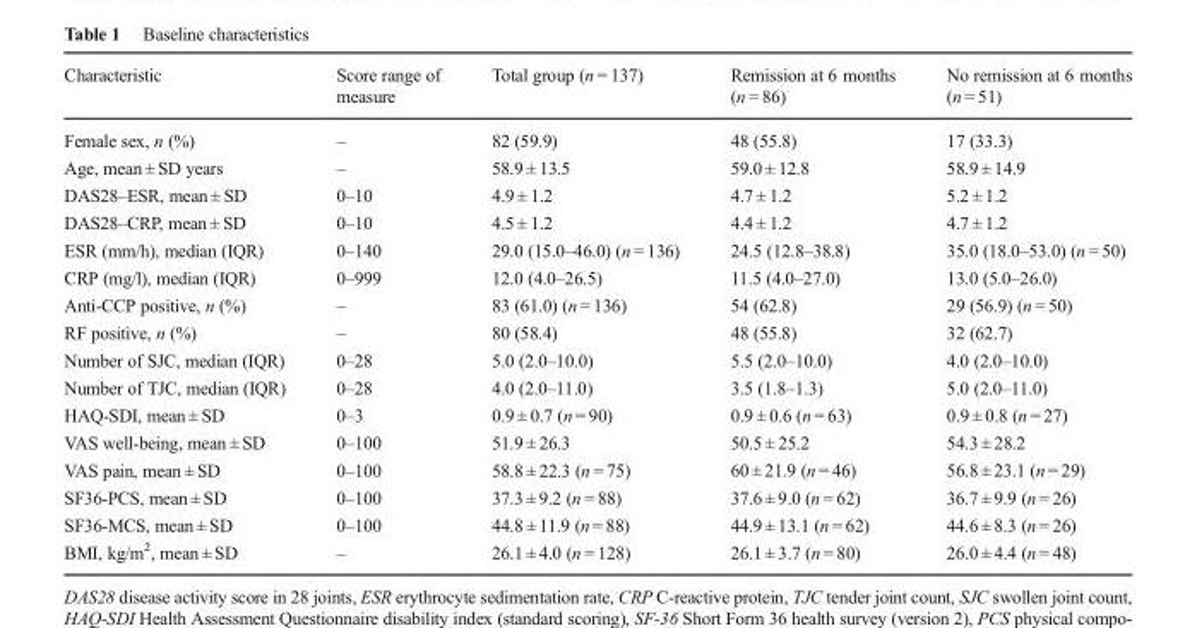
<table><thead><tr><td>Characteristic</td><td>Score range of measure</td><td>Total group (n = 137)</td><td>Remission at 6 months (n = 86)</td><td>No remission at 6 months (n = 51)</td></tr></thead><tbody><tr><td>Female sex, n (%)</td><td>–</td><td>82 (59.9)</td><td>48 (55.8)</td><td>17 (33.3)</td></tr><tr><td>Age, mean ± SD years</td><td>–</td><td>58.9 ± 13.5</td><td>59.0 ± 12.8</td><td>58.9 ± 14.9</td></tr><tr><td>DAS28–ESR, mean ± SD</td><td>0–10</td><td>4.9 ± 1.2</td><td>4.7 ± 1.2</td><td>5.2 ± 1.2</td></tr><tr><td>DAS28–CRP, mean ± SD</td><td>0–10</td><td>4.5 ± 1.2</td><td>4.4 ± 1.2</td><td>4.7 ± 1.2</td></tr><tr><td>ESR (mm/h), median (IQR)</td><td>0–140</td><td>29.0 (15.0–46.0) (n = 136)</td><td>24.5 (12.8–38.8)</td><td>35.0 (18.0–53.0) (n = 50)</td></tr><tr><td>CRP (mg/l), median (IQR)</td><td>0–999</td><td>12.0 (4.0–26.5)</td><td>11.5 (4.0–27.0)</td><td>13.0 (5.0–26.0)</td></tr><tr><td>Anti-CCP positive, n (%)</td><td>–</td><td>83 (61.0) (n = 136)</td><td>54 (62.8)</td><td>29 (56.9) (n = 50)</td></tr><tr><td>RF positive, n (%)</td><td>–</td><td>80 (58.4)</td><td>48 (55.8)</td><td>32 (62.7)</td></tr><tr><td>Number of SJC, median (IQR)</td><td>0–28</td><td>5.0 (2.0–10.0)</td><td>5.5 (2.0–10.0)</td><td>4.0 (2.0–10.0)</td></tr><tr><td>Number of TJC, median (IQR)</td><td>0–28</td><td>4.0 (2.0–11.0)</td><td>3.5 (1.8–1.3)</td><td>5.0 (2.0–11.0)</td></tr><tr><td>HAQ-SDI, mean ± SD</td><td>0–3</td><td>0.9 ± 0.7 (n = 90)</td><td>0.9 ± 0.6 (n = 63)</td><td>0.9 ± 0.8 (n = 27)</td></tr><tr><td>VAS well-being, mean ± SD</td><td>0–100</td><td>51.9 ± 26.3</td><td>50.5 ± 25.2</td><td>54.3 ± 28.2</td></tr><tr><td>VAS pain, mean ± SD</td><td>0–100</td><td>58.8 ± 22.3 (n = 75)</td><td>60 ± 21.9 (n = 46)</td><td>56.8 ± 23.1 (n = 29)</td></tr><tr><td>SF36-PCS, mean ± SD</td><td>0–100</td><td>37.3 ± 9.2 (n = 88)</td><td>37.6 ± 9.0 (n = 62)</td><td>36.7 ± 9.9 (n = 26)</td></tr><tr><td>SF36-MCS, mean ± SD</td><td>0–100</td><td>44.8 ± 11.9 (n = 88)</td><td>44.9 ± 13.1 (n = 62)</td><td>44.6 ± 8.3 (n = 26)</td></tr><tr><td>BMI, kg/m<sup>2</sup>, mean ± SD</td><td>–</td><td>26.1 ± 4.0 (n = 128)</td><td>26.1 ± 3.7 (n = 80)</td><td>26.0 ± 4.4 (n = 48)</td></tr></tbody></table>